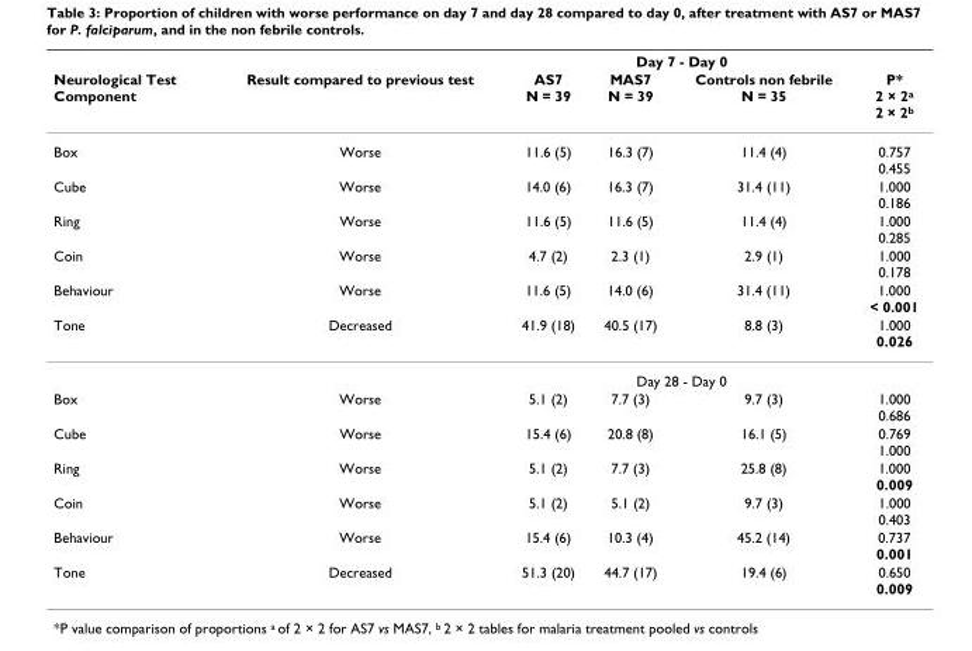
<table><thead><tr><td rowspan="2">Neurological Test Component</td><td rowspan="2">Result compared to previous test</td><td colspan="3">Day 7 - Day 0</td><td rowspan="2">P* 2 × 2<sup>a</sup> 2 × 2<sup>b</sup></td></tr><tr><td>AS7 N = 39</td><td>MAS7 N = 39</td><td>Controls non febrile N = 35</td></tr></thead><tbody><tr><td>Box</td><td>Worse</td><td>11.6 (5)</td><td>16.3 (7)</td><td>11.4 (4)</td><td>0.757 0.455</td></tr><tr><td>Cube</td><td>Worse</td><td>14.0 (6)</td><td>16.3 (7)</td><td>31.4 (11)</td><td>1.000 0.186</td></tr><tr><td>Ring</td><td>Worse</td><td>11.6 (5)</td><td>11.6 (5)</td><td>11.4 (4)</td><td>1.000 0.285</td></tr><tr><td>Coin</td><td>Worse</td><td>4.7 (2)</td><td>2.3 (1)</td><td>2.9 (1)</td><td>1.000 0.178</td></tr><tr><td>Behaviour</td><td>Worse</td><td>11.6 (5)</td><td>14.0 (6)</td><td>31.4 (11)</td><td>1.000 &lt; 0.001</td></tr><tr><td rowspan="2">Tone</td><td>Decreased</td><td>41.9 (18)</td><td>40.5 (17)</td><td>8.8 (3)</td><td>1.000 0.026</td></tr><tr><td></td><td colspan="3">Day 28 - Day 0</td><td></td></tr><tr><td>Box</td><td>Worse</td><td>5.1 (2)</td><td>7.7 (3)</td><td>9.7 (3)</td><td>1.000 0.686</td></tr><tr><td>Cube</td><td>Worse</td><td>15.4 (6)</td><td>20.8 (8)</td><td>16.1 (5)</td><td>0.769 1.000</td></tr><tr><td>Ring</td><td>Worse</td><td>5.1 (2)</td><td>7.7 (3)</td><td>25.8 (8)</td><td>1.000 0.009</td></tr><tr><td>Coin</td><td>Worse</td><td>5.1 (2)</td><td>5.1 (2)</td><td>9.7 (3)</td><td>1.000 0.403</td></tr><tr><td>Behaviour</td><td>Worse</td><td>15.4 (6)</td><td>10.3 (4)</td><td>45.2 (14)</td><td>0.737 0.001</td></tr><tr><td>Tone</td><td>Decreased</td><td>51.3 (20)</td><td>44.7 (17)</td><td>19.4 (6)</td><td>0.650 0.009</td></tr></tbody></table>